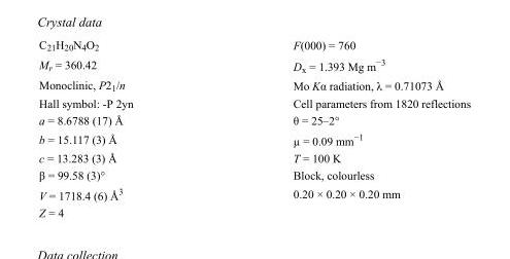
<table><tbody><tr><td>C<sub>21</sub>H<sub>20</sub>N<sub>4</sub>O<sub>2</sub></td><td>F(000) = 760</td></tr><tr><td>M<sub>r</sub> = 360.42</td><td>D<sub>x</sub> = 1.393 Mg m<sup>−3</sup></td></tr><tr><td>Monoclinic, P2<sub>1</sub>/n</td><td>Mo Kα radiation, λ = 0.71073 Å</td></tr><tr><td>Hall symbol: -P 2yn</td><td>Cell parameters from 1820 reflections</td></tr><tr><td>a = 8.6788 (17) Å</td><td>θ = 25–2°</td></tr><tr><td>b = 15.117 (3) Å</td><td>µ = 0.09 mm<sup>−1</sup></td></tr><tr><td>c = 13.283 (3) Å</td><td>T = 100 K</td></tr><tr><td>β = 99.58 (3)°</td><td>Block, colourless</td></tr><tr><td>V = 1718.4 (6) Å<sup>3</sup></td><td>0.20 × 0.20 × 0.20 mm</td></tr><tr><td>Z = 4</td><td></td></tr></tbody></table>